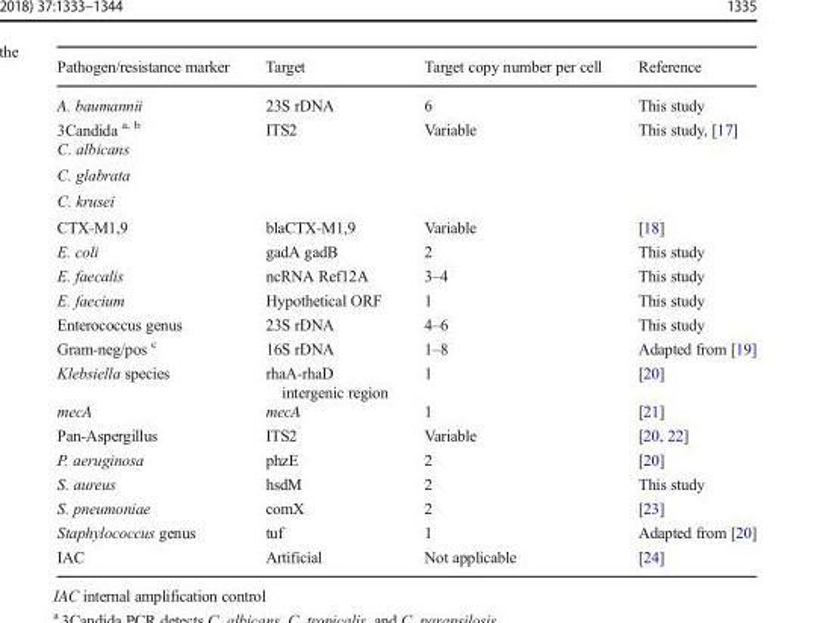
<table><thead><tr><td>Pathogen/resistance marker</td><td>Target</td><td>Target copy number per cell</td><td>Reference</td></tr></thead><tbody><tr><td>A. baumannii</td><td>23S rDNA</td><td>6</td><td>This study</td></tr><tr><td>3Candida <sup>a, b</sup></td><td rowspan="4">ITS2</td><td rowspan="4">Variable</td><td rowspan="4">This study, [17]</td></tr><tr><td>C. albicans</td></tr><tr><td>C. glabrata</td></tr><tr><td>C. krusei</td></tr><tr><td>CTX-M1,9</td><td>blaCTX-M1,9</td><td>Variable</td><td>[18]</td></tr><tr><td>E. coli</td><td>gadA gadB</td><td>2</td><td>This study</td></tr><tr><td>E. faecalis</td><td>ncRNA Ref12A</td><td>3–4</td><td>This study</td></tr><tr><td>E. faecium</td><td>Hypothetical ORF</td><td>1</td><td>This study</td></tr><tr><td>Enterococcus genus</td><td>23S rDNA</td><td>4–6</td><td>This study</td></tr><tr><td>Gram-neg/pos <sup>c</sup></td><td>16S rDNA</td><td>1–8</td><td>Adapted from [19]</td></tr><tr><td>Klebsiella species</td><td>rhaA-rhaD intergenic region</td><td>1</td><td>[20]</td></tr><tr><td>mecA</td><td>mecA</td><td>1</td><td>[21]</td></tr><tr><td>Pan-Aspergillus</td><td>ITS2</td><td>Variable</td><td>[20, 22]</td></tr><tr><td>P. aeruginosa</td><td>phzE</td><td>2</td><td>[20]</td></tr><tr><td>S. aureus</td><td>hsdM</td><td>2</td><td>This study</td></tr><tr><td>S. pneumoniae</td><td>comX</td><td>2</td><td>[23]</td></tr><tr><td>Staphylococcus genus</td><td>tuf</td><td>1</td><td>Adapted from [20]</td></tr><tr><td>IAC</td><td>Artificial</td><td>Not applicable</td><td>[24]</td></tr></tbody></table>